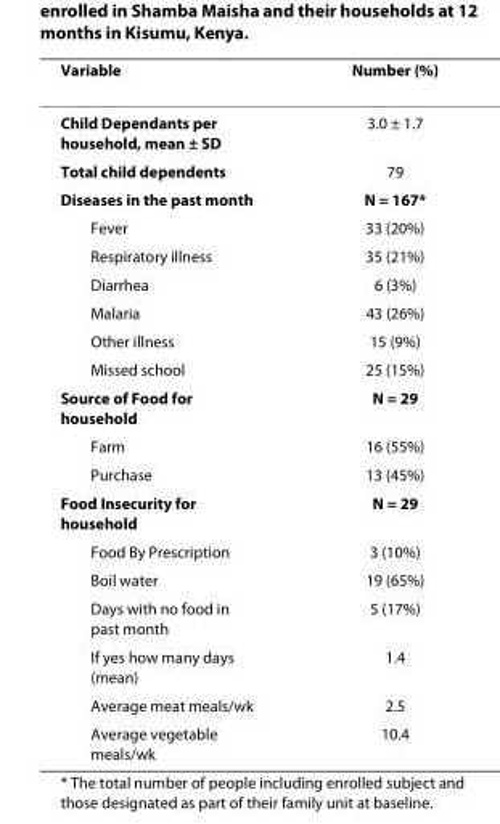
<table><thead><tr><td>Variable</td><td>Number (%)</td></tr></thead><tbody><tr><td>Child Dependants per household, mean ± SD</td><td>3.0 ± 1.7</td></tr><tr><td>Total child dependents</td><td>79</td></tr><tr><td>Diseases in the past month</td><td>N = 167*</td></tr><tr><td>Fever</td><td>33 (20%)</td></tr><tr><td>Respiratory illness</td><td>35 (21%)</td></tr><tr><td>Diarrhea</td><td>6 (3%)</td></tr><tr><td>Malaria</td><td>43 (26%)</td></tr><tr><td>Other illness</td><td>15 (9%)</td></tr><tr><td>Missed school</td><td>25 (15%)</td></tr><tr><td>Source of Food for household</td><td>N = 29</td></tr><tr><td>Farm</td><td>16 (55%)</td></tr><tr><td>Purchase</td><td>13 (45%)</td></tr><tr><td>Food Insecurity for household</td><td>N = 29</td></tr><tr><td>Food By Prescription</td><td>3 (10%)</td></tr><tr><td>Boil water</td><td>19 (65%)</td></tr><tr><td>Days with no food in past month</td><td>5 (17%)</td></tr><tr><td>If yes how many days (mean)</td><td>1.4</td></tr><tr><td>Average meat meals/wk</td><td>2.5</td></tr><tr><td>Average vegetable meals/wk</td><td>10.4</td></tr></tbody></table>